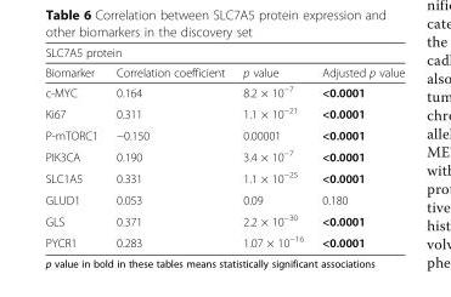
<table><thead><tr><td colspan="4">SLC7A5 protein</td></tr><tr><td>Biomarker</td><td>Correlation coefficient</td><td>p value</td><td>Adjusted p value</td></tr></thead><tbody><tr><td>c-MYC</td><td>0.164</td><td>8.2 × 10<sup>−7</sup></td><td>&lt;0.0001</td></tr><tr><td>Ki67</td><td>0.311</td><td>1.1 × 10<sup>−21</sup></td><td>&lt;0.0001</td></tr><tr><td>P-mTORC1</td><td>−0.150</td><td>0.00001</td><td>&lt;0.0001</td></tr><tr><td>PIK3CA</td><td>0.190</td><td>3.4 × 10<sup>−7</sup></td><td>&lt;0.0001</td></tr><tr><td>SLC1A5</td><td>0.331</td><td>1.1 × 10<sup>−25</sup></td><td>&lt;0.0001</td></tr><tr><td>GLUD1</td><td>0.053</td><td>0.09</td><td>0.180</td></tr><tr><td>GLS</td><td>0.371</td><td>2.2 × 10<sup>−30</sup></td><td>&lt;0.0001</td></tr><tr><td>PYCR1</td><td>0.283</td><td>1.07 × 10<sup>−16</sup></td><td>&lt;0.0001</td></tr></tbody></table>